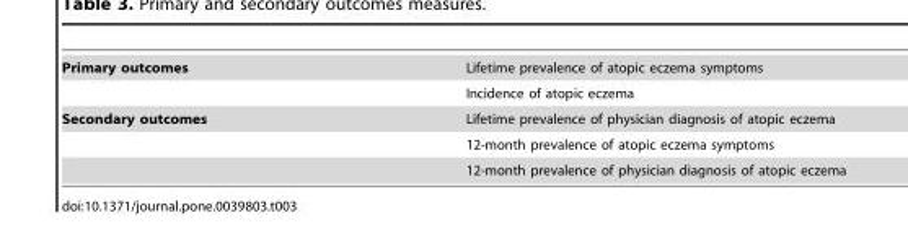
<table><tbody><tr><td rowspan="2">Primary outcomes</td><td>Lifetime prevalence of atopic eczema symptoms</td></tr><tr><td>Incidence of atopic eczema</td></tr><tr><td rowspan="3">Secondary outcomes</td><td>Lifetime prevalence of physician diagnosis of atopic eczema</td></tr><tr><td>12-month prevalence of atopic eczema symptoms</td></tr><tr><td>12-month prevalence of physician diagnosis of atopic eczema</td></tr></tbody></table>